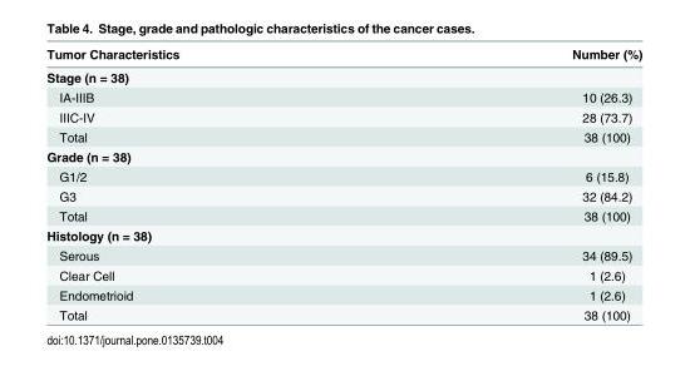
<table><thead><tr><td>Tumor Characteristics</td><td>Number (%)</td></tr></thead><tbody><tr><td colspan="2">Stage (n = 38)</td></tr><tr><td>IA-IIIB</td><td>10 (26.3)</td></tr><tr><td>IIIC-IV</td><td>28 (73.7)</td></tr><tr><td>Total</td><td>38 (100)</td></tr><tr><td colspan="2">Grade (n = 38)</td></tr><tr><td>G1/2</td><td>6 (15.8)</td></tr><tr><td>G3</td><td>32 (84.2)</td></tr><tr><td>Total</td><td>38 (100)</td></tr><tr><td colspan="2">Histology (n = 38)</td></tr><tr><td>Serous</td><td>34 (89.5)</td></tr><tr><td>Clear Cell</td><td>1 (2.6)</td></tr><tr><td>Endometrioid</td><td>1 (2.6)</td></tr><tr><td>Total</td><td>38 (100)</td></tr></tbody></table>